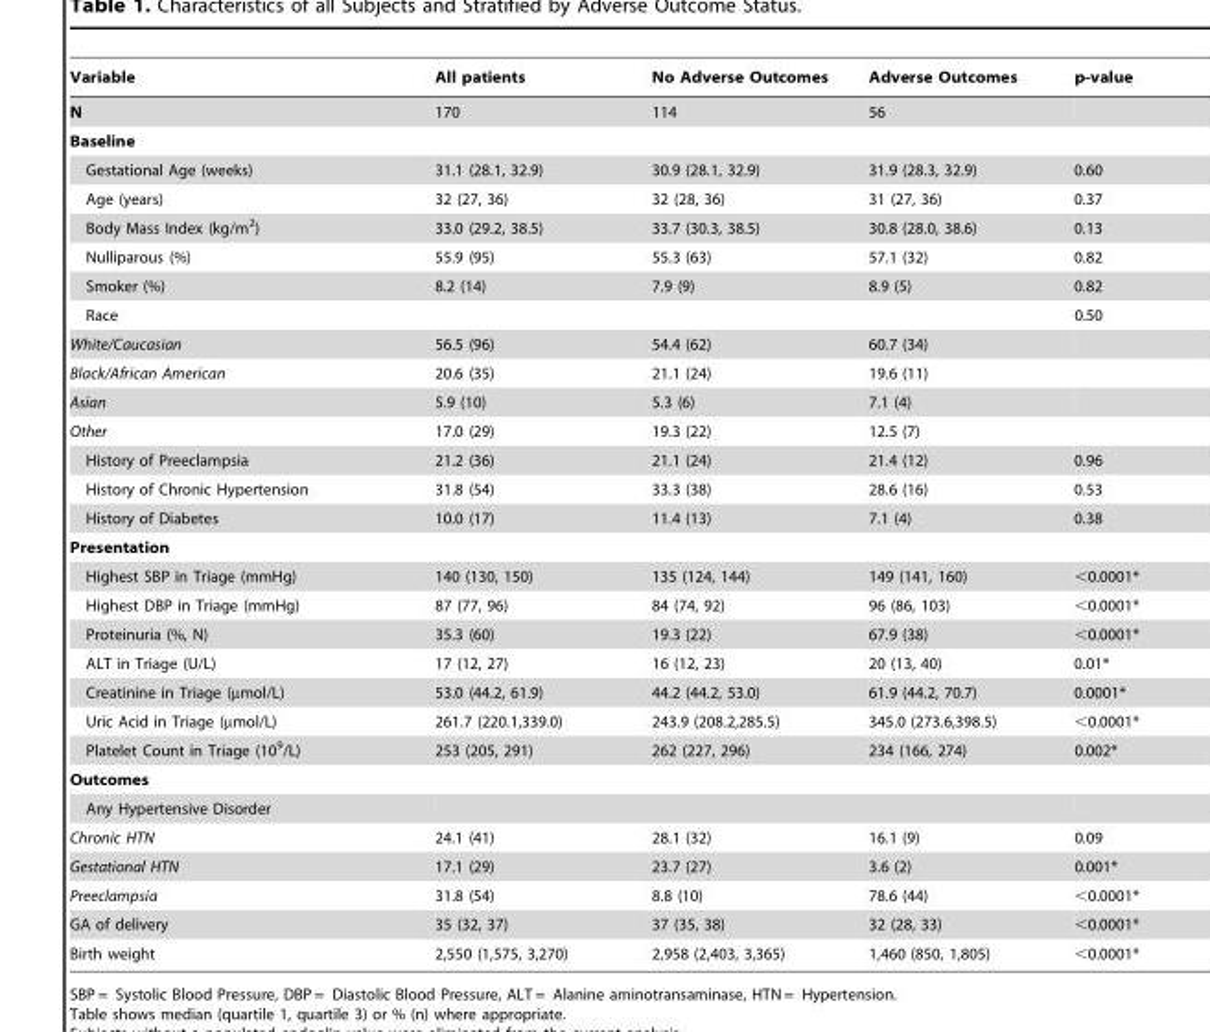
<table><thead><tr><td>Variable</td><td>All patients</td><td>No Adverse Outcomes</td><td>Adverse Outcomes</td><td>p-value</td></tr></thead><tbody><tr><td>N</td><td>170</td><td>114</td><td>56</td><td></td></tr><tr><td colspan="5">Baseline</td></tr><tr><td>Gestational Age (weeks)</td><td>31.1 (28.1, 32.9)</td><td>30.9 (28.1, 32.9)</td><td>31.9 (28.3, 32.9)</td><td>0.60</td></tr><tr><td>Age (years)</td><td>32 (27, 36)</td><td>32 (28, 36)</td><td>31 (27, 36)</td><td>0.37</td></tr><tr><td>Body Mass Index (kg/m<sup>2</sup>)</td><td>33.0 (29.2, 38.5)</td><td>33.7 (30.3, 38.5)</td><td>30.8 (28.0, 38.6)</td><td>0.13</td></tr><tr><td>Nulliparous (%)</td><td>55.9 (95)</td><td>55.3 (63)</td><td>57.1 (32)</td><td>0.82</td></tr><tr><td>Smoker (%)</td><td>8.2 (14)</td><td>7.9 (9)</td><td>8.9 (5)</td><td>0.82</td></tr><tr><td>Race</td><td></td><td></td><td></td><td>0.50</td></tr><tr><td>White/Caucasian</td><td>56.5 (96)</td><td>54.4 (62)</td><td>60.7 (34)</td><td></td></tr><tr><td>Black/African American</td><td>20.6 (35)</td><td>21.1 (24)</td><td>19.6 (11)</td><td></td></tr><tr><td>Asian</td><td>5.9 (10)</td><td>5.3 (6)</td><td>7.1 (4)</td><td></td></tr><tr><td>Other</td><td>17.0 (29)</td><td>19.3 (22)</td><td>12.5 (7)</td><td></td></tr><tr><td>History of Preeclampsia</td><td>21.2 (36)</td><td>21.1 (24)</td><td>21.4 (12)</td><td>0.96</td></tr><tr><td>History of Chronic Hypertension</td><td>31.8 (54)</td><td>33.3 (38)</td><td>28.6 (16)</td><td>0.53</td></tr><tr><td>History of Diabetes</td><td>10.0 (17)</td><td>11.4 (13)</td><td>7.1 (4)</td><td>0.38</td></tr><tr><td colspan="5">Presentation</td></tr><tr><td>Highest SBP in Triage (mmHg)</td><td>140 (130, 150)</td><td>135 (124, 144)</td><td>149 (141, 160)</td><td>&lt;0.0001*</td></tr><tr><td>Highest DBP in Triage (mmHg)</td><td>87 (77, 96)</td><td>84 (74, 92)</td><td>96 (86, 103)</td><td>&lt;0.0001*</td></tr><tr><td>Proteinuria (%, N)</td><td>35.3 (60)</td><td>19.3 (22)</td><td>67.9 (38)</td><td>&lt;0.0001*</td></tr><tr><td>ALT in Triage (U/L)</td><td>17 (12, 27)</td><td>16 (12, 23)</td><td>20 (13, 40)</td><td>0.01*</td></tr><tr><td>Creatinine in Triage (µmol/L)</td><td>53.0 (44.2, 61.9)</td><td>44.2 (44.2, 53.0)</td><td>61.9 (44.2, 70.7)</td><td>0.0001*</td></tr><tr><td>Uric Acid in Triage (µmol/L)</td><td>261.7 (220.1,339.0)</td><td>243.9 (208.2,285.5)</td><td>345.0 (273.6,398.5)</td><td>&lt;0.0001*</td></tr><tr><td>Platelet Count in Triage (10<sup>9</sup>/L)</td><td>253 (205, 291)</td><td>262 (227, 296)</td><td>234 (166, 274)</td><td>0.002*</td></tr><tr><td colspan="5">Outcomes</td></tr><tr><td colspan="5">Any Hypertensive Disorder</td></tr><tr><td>Chronic HTN</td><td>24.1 (41)</td><td>28.1 (32)</td><td>16.1 (9)</td><td>0.09</td></tr><tr><td>Gestational HTN</td><td>17.1 (29)</td><td>23.7 (27)</td><td>3.6 (2)</td><td>0.001*</td></tr><tr><td>Preeclampsia</td><td>31.8 (54)</td><td>8.8 (10)</td><td>78.6 (44)</td><td>&lt;0.0001*</td></tr><tr><td>GA of delivery</td><td>35 (32, 37)</td><td>37 (35, 38)</td><td>32 (28, 33)</td><td>&lt;0.0001*</td></tr><tr><td>Birth weight</td><td>2,550 (1,575, 3,270)</td><td>2,958 (2,403, 3,365)</td><td>1,460 (850, 1,805)</td><td>&lt;0.0001*</td></tr></tbody></table>